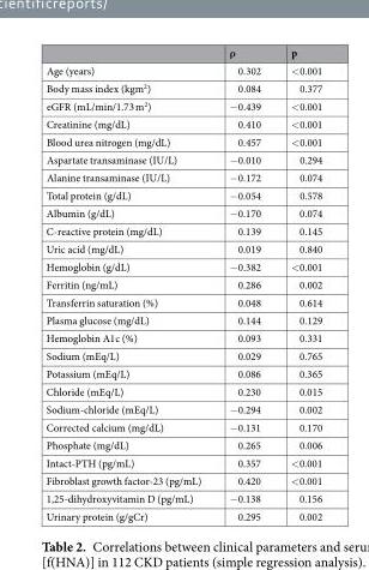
<table><thead><tr><td></td><td>ρ</td><td>p</td></tr></thead><tbody><tr><td>Age (years)</td><td>0.302</td><td>&lt;0.001</td></tr><tr><td>Body mass index (kgm<sup>2</sup>)</td><td>0.084</td><td>0.377</td></tr><tr><td>eGFR (mL/min/1.73 m<sup>2</sup>)</td><td>−0.439</td><td>&lt;0.001</td></tr><tr><td>Creatinine (mg/dL)</td><td>0.410</td><td>&lt;0.001</td></tr><tr><td>Blood urea nitrogen (mg/dL)</td><td>0.457</td><td>&lt;0.001</td></tr><tr><td>Aspartate transaminase (IU/L)</td><td>−0.010</td><td>0.294</td></tr><tr><td>Alanine transaminase (IU/L)</td><td>−0.172</td><td>0.074</td></tr><tr><td>Total protein (g/dL)</td><td>−0.054</td><td>0.578</td></tr><tr><td>Albumin (g/dL)</td><td>−0.170</td><td>0.074</td></tr><tr><td>C-reactive protein (mg/dL)</td><td>0.139</td><td>0.145</td></tr><tr><td>Uric acid (mg/dL)</td><td>0.019</td><td>0.840</td></tr><tr><td>Hemoglobin (g/dL)</td><td>−0.382</td><td>&lt;0.001</td></tr><tr><td>Ferritin (ng/mL)</td><td>0.286</td><td>0.002</td></tr><tr><td>Transferrin saturation (%)</td><td>0.048</td><td>0.614</td></tr><tr><td>Plasma glucose (mg/dL)</td><td>0.144</td><td>0.129</td></tr><tr><td>Hemoglobin A1c (%)</td><td>0.093</td><td>0.331</td></tr><tr><td>Sodium (mEq/L)</td><td>0.029</td><td>0.765</td></tr><tr><td>Potassium (mEq/L)</td><td>0.086</td><td>0.365</td></tr><tr><td>Chloride (mEq/L)</td><td>0.230</td><td>0.015</td></tr><tr><td>Sodium-chloride (mEq/L)</td><td>−0.294</td><td>0.002</td></tr><tr><td>Corrected calcium (mg/dL)</td><td>−0.131</td><td>0.170</td></tr><tr><td>Phosphate (mg/dL)</td><td>0.265</td><td>0.006</td></tr><tr><td>Intact-PTH (pg/mL)</td><td>0.357</td><td>&lt;0.001</td></tr><tr><td>Fibroblast growth factor-23 (pg/mL)</td><td>0.420</td><td>&lt;0.001</td></tr><tr><td>1,25-dihydroxyvitamin D (pg/mL)</td><td>−0.138</td><td>0.156</td></tr><tr><td>Urinary protein (g/gCr)</td><td>0.295</td><td>0.002</td></tr></tbody></table>